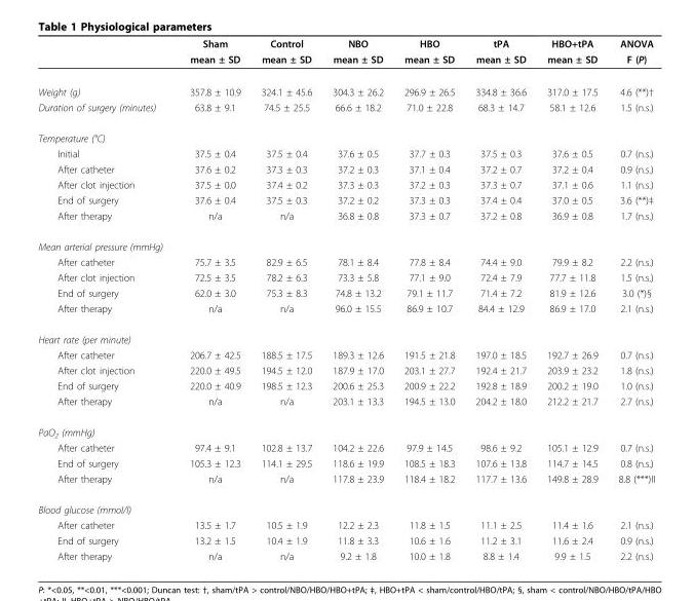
<table><thead><tr><td rowspan="2"></td><td rowspan="2">Sham mean ± SD</td><td rowspan="2">Control mean ± SD</td><td rowspan="2">NBO mean ± SD</td><td rowspan="2">HBO mean ± SD</td><td rowspan="2">tPA mean ± SD</td><td rowspan="2">HBO+tPA mean ± SD</td><td rowspan="2">ANOVA F (P)</td></tr><tr></tr></thead><tbody><tr><td>Weight (g)</td><td>357.8 ± 10.9</td><td>324.1 ± 45.6</td><td>304.3 ± 26.2</td><td>296.9 ± 26.5</td><td>334.8 ± 36.6</td><td>317.0 ± 17.5</td><td>4.6 (**)†</td></tr><tr><td>Duration of surgery (minutes)</td><td>63.8 ± 9.1</td><td>74.5 ± 25.5</td><td>66.6 ± 18.2</td><td>71.0 ± 22.8</td><td>68.3 ± 14.7</td><td>58.1 ± 12.6</td><td>1.5 (n.s.)</td></tr><tr><td colspan="8">Temperature (°C)</td></tr><tr><td>Initial</td><td>37.5 ± 0.4</td><td>37.5 ± 0.4</td><td>37.6 ± 0.5</td><td>37.7 ± 0.3</td><td>37.5 ± 0.3</td><td>37.6 ± 0.5</td><td>0.7 (n.s.)</td></tr><tr><td>After catheter</td><td>37.6 ± 0.2</td><td>37.3 ± 0.3</td><td>37.2 ± 0.3</td><td>37.1 ± 0.4</td><td>37.2 ± 0.7</td><td>37.2 ± 0.4</td><td>0.9 (n.s.)</td></tr><tr><td>After clot injection</td><td>37.5 ± 0.0</td><td>37.4 ± 0.2</td><td>37.3 ± 0.3</td><td>37.2 ± 0.3</td><td>37.3 ± 0.7</td><td>37.1 ± 0.6</td><td>1.1 (n.s.)</td></tr><tr><td>End of surgery</td><td>37.6 ± 0.4</td><td>37.5 ± 0.3</td><td>37.2 ± 0.2</td><td>37.3 ± 0.3</td><td>37.4 ± 0.4</td><td>37.0 ± 0.5</td><td>3.6 (**)‡</td></tr><tr><td>After therapy</td><td>n/a</td><td>n/a</td><td>36.8 ± 0.8</td><td>37.3 ± 0.7</td><td>37.2 ± 0.8</td><td>36.9 ± 0.8</td><td>1.7 (n.s.)</td></tr><tr><td colspan="8">Mean arterial pressure (mmHg)</td></tr><tr><td>After catheter</td><td>75.7 ± 3.5</td><td>82.9 ± 6.5</td><td>78.1 ± 8.4</td><td>77.8 ± 8.4</td><td>74.4 ± 9.0</td><td>79.9 ± 8.2</td><td>2.2 (n.s.)</td></tr><tr><td>After clot injection</td><td>72.5 ± 3.5</td><td>78.2 ± 6.3</td><td>73.3 ± 5.8</td><td>77.1 ± 9.0</td><td>72.4 ± 7.9</td><td>77.7 ± 11.8</td><td>1.5 (n.s.)</td></tr><tr><td>End of surgery</td><td>62.0 ± 3.0</td><td>75.3 ± 8.3</td><td>74.8 ± 13.2</td><td>79.1 ± 11.7</td><td>71.4 ± 7.2</td><td>81.9 ± 12.6</td><td>3.0 (*)§</td></tr><tr><td>After therapy</td><td>n/a</td><td>n/a</td><td>96.0 ± 15.5</td><td>86.9 ± 10.7</td><td>84.4 ± 12.9</td><td>86.9 ± 17.0</td><td>2.1 (n.s.)</td></tr><tr><td colspan="8">Heart rate (per minute)</td></tr><tr><td>After catheter</td><td>206.7 ± 42.5</td><td>188.5 ± 17.5</td><td>189.3 ± 12.6</td><td>191.5 ± 21.8</td><td>197.0 ± 18.5</td><td>192.7 ± 26.9</td><td>0.7 (n.s.)</td></tr><tr><td>After clot injection</td><td>220.0 ± 49.5</td><td>194.5 ± 12.0</td><td>187.9 ± 17.0</td><td>203.1 ± 27.7</td><td>192.4 ± 21.7</td><td>203.9 ± 23.2</td><td>1.8 (n.s.)</td></tr><tr><td>End of surgery</td><td>220.0 ± 40.9</td><td>198.5 ± 12.3</td><td>200.6 ± 25.3</td><td>200.9 ± 22.2</td><td>192.8 ± 18.9</td><td>200.2 ± 19.0</td><td>1.0 (n.s.)</td></tr><tr><td>After therapy</td><td>n/a</td><td>n/a</td><td>203.1 ± 13.3</td><td>194.5 ± 13.0</td><td>204.2 ± 18.0</td><td>212.2 ± 21.7</td><td>2.7 (n.s.)</td></tr><tr><td colspan="8">PaO<sub>2</sub> (mmHg)</td></tr><tr><td>After catheter</td><td>97.4 ± 9.1</td><td>102.8 ± 13.7</td><td>104.2 ± 22.6</td><td>97.9 ± 14.5</td><td>98.6 ± 9.2</td><td>105.1 ± 12.9</td><td>0.7 (n.s.)</td></tr><tr><td>End of surgery</td><td>105.3 ± 12.3</td><td>114.1 ± 29.5</td><td>118.6 ± 19.9</td><td>108.5 ± 18.3</td><td>107.6 ± 13.8</td><td>114.7 ± 14.5</td><td>0.8 (n.s.)</td></tr><tr><td>After therapy</td><td>n/a</td><td>n/a</td><td>117.8 ± 23.9</td><td>118.4 ± 18.2</td><td>117.7 ± 13.6</td><td>149.8 ± 28.9</td><td>8.8 (***)II</td></tr><tr><td colspan="8">Blood glucose (mmol/l)</td></tr><tr><td>After catheter</td><td>13.5 ± 1.7</td><td>10.5 ± 1.9</td><td>12.2 ± 2.3</td><td>11.8 ± 1.5</td><td>11.1 ± 2.5</td><td>11.4 ± 1.6</td><td>2.1 (n.s.)</td></tr><tr><td>End of surgery</td><td>13.2 ± 1.5</td><td>10.4 ± 1.9</td><td>11.8 ± 3.3</td><td>10.6 ± 1.6</td><td>11.2 ± 3.1</td><td>11.6 ± 2.4</td><td>0.9 (n.s.)</td></tr><tr><td>After therapy</td><td>n/a</td><td>n/a</td><td>9.2 ± 1.8</td><td>10.0 ± 1.8</td><td>8.8 ± 1.4</td><td>9.9 ± 1.5</td><td>2.2 (n.s.)</td></tr></tbody></table>